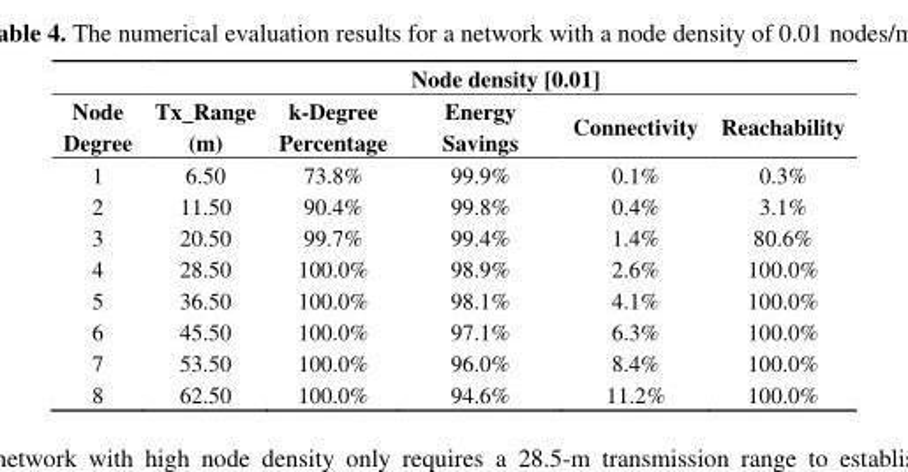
<table><thead><tr><td rowspan="2">Node Degree</td><td colspan="5">Node density [0.01]</td></tr><tr><td>Tx_Range (m)</td><td>k-Degree Percentage</td><td>Energy Savings</td><td>Connectivity</td><td>Reachability</td></tr></thead><tbody><tr><td>1</td><td>6.50</td><td>73.8%</td><td>99.9%</td><td>0.1%</td><td>0.3%</td></tr><tr><td>2</td><td>11.50</td><td>90.4%</td><td>99.8%</td><td>0.4%</td><td>3.1%</td></tr><tr><td>3</td><td>20.50</td><td>99.7%</td><td>99.4%</td><td>1.4%</td><td>80.6%</td></tr><tr><td>4</td><td>28.50</td><td>100.0%</td><td>98.9%</td><td>2.6%</td><td>100.0%</td></tr><tr><td>5</td><td>36.50</td><td>100.0%</td><td>98.1%</td><td>4.1%</td><td>100.0%</td></tr><tr><td>6</td><td>45.50</td><td>100.0%</td><td>97.1%</td><td>6.3%</td><td>100.0%</td></tr><tr><td>7</td><td>53.50</td><td>100.0%</td><td>96.0%</td><td>8.4%</td><td>100.0%</td></tr><tr><td>8</td><td>62.50</td><td>100.0%</td><td>94.6%</td><td>11.2%</td><td>100.0%</td></tr></tbody></table>